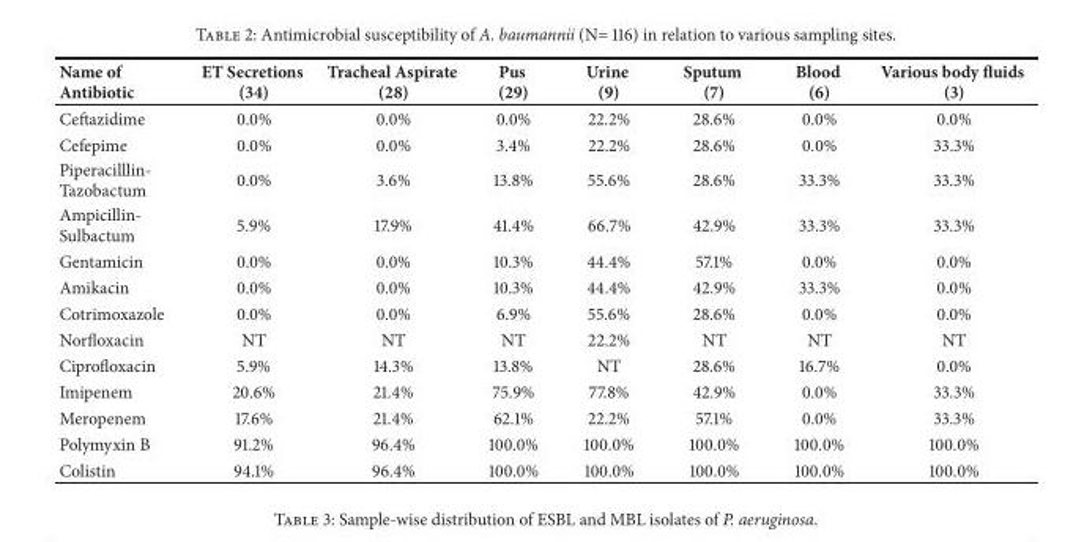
<table><thead><tr><td>Name of Antibiotic</td><td>ET Secretions (34)</td><td>Tracheal Aspirate (28)</td><td>Pus (29)</td><td>Urine (9)</td><td>Sputum (7)</td><td>Blood (6)</td><td>Various body fluids (3)</td></tr></thead><tbody><tr><td>Ceftazidime</td><td>0.0%</td><td>0.0%</td><td>0.0%</td><td>22.2%</td><td>28.6%</td><td>0.0%</td><td>0.0%</td></tr><tr><td>Cefepime</td><td>0.0%</td><td>0.0%</td><td>3.4%</td><td>22.2%</td><td>28.6%</td><td>0.0%</td><td>33.3%</td></tr><tr><td>Piperacilllin- Tazobactum</td><td>0.0%</td><td>3.6%</td><td>13.8%</td><td>55.6%</td><td>28.6%</td><td>33.3%</td><td>33.3%</td></tr><tr><td>Ampicillin- Sulbactum</td><td>5.9%</td><td>17.9%</td><td>41.4%</td><td>66.7%</td><td>42.9%</td><td>33.3%</td><td>33.3%</td></tr><tr><td>Gentamicin</td><td>0.0%</td><td>0.0%</td><td>10.3%</td><td>44.4%</td><td>57.1%</td><td>0.0%</td><td>0.0%</td></tr><tr><td>Amikacin</td><td>0.0%</td><td>0.0%</td><td>10.3%</td><td>44.4%</td><td>42.9%</td><td>33.3%</td><td>0.0%</td></tr><tr><td>Cotrimoxazole</td><td>0.0%</td><td>0.0%</td><td>6.9%</td><td>55.6%</td><td>28.6%</td><td>0.0%</td><td>0.0%</td></tr><tr><td>Norfloxacin</td><td>NT</td><td>NT</td><td>NT</td><td>22.2%</td><td>NT</td><td>NT</td><td>NT</td></tr><tr><td>Ciprofloxacin</td><td>5.9%</td><td>14.3%</td><td>13.8%</td><td>NT</td><td>28.6%</td><td>16.7%</td><td>0.0%</td></tr><tr><td>Imipenem</td><td>20.6%</td><td>21.4%</td><td>75.9%</td><td>77.8%</td><td>42.9%</td><td>0.0%</td><td>33.3%</td></tr><tr><td>Meropenem</td><td>17.6%</td><td>21.4%</td><td>62.1%</td><td>22.2%</td><td>57.1%</td><td>0.0%</td><td>33.3%</td></tr><tr><td>Polymyxin B</td><td>91.2%</td><td>96.4%</td><td>100.0%</td><td>100.0%</td><td>100.0%</td><td>100.0%</td><td>100.0%</td></tr><tr><td>Colistin</td><td>94.1%</td><td>96.4%</td><td>100.0%</td><td>100.0%</td><td>100.0%</td><td>100.0%</td><td>100.0%</td></tr></tbody></table>